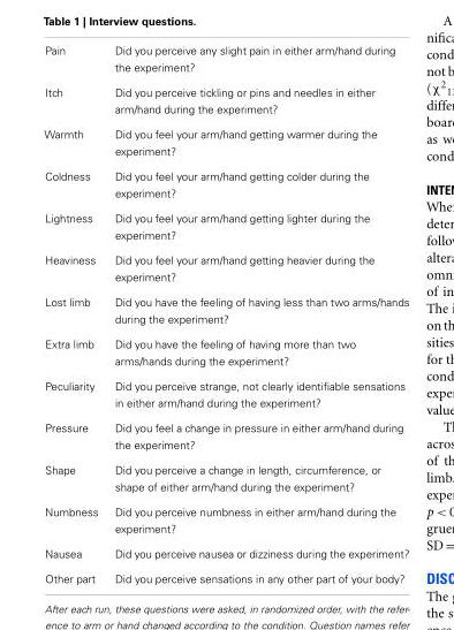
<table><tbody><tr><td>Pain</td><td>Did you perceive any slight pain in either arm/hand during the experiment?</td></tr><tr><td>Itch</td><td>Did you perceive tickling or pins and needles in either arm/hand during the experiment?</td></tr><tr><td>Warmth</td><td>Did you feel your arm/hand getting warmer during the experiment?</td></tr><tr><td>Coldness</td><td>Did you feel your arm/hand getting colder during the experiment?</td></tr><tr><td>Lightness</td><td>Did you feel your arm/hand getting lighter during the experiment?</td></tr><tr><td>Heaviness</td><td>Did you feel your arm/hand getting heavier during the experiment?</td></tr><tr><td>Lost limb</td><td>Did you have the feeling of having less than two arms/hands during the experiment?</td></tr><tr><td>Extra limb</td><td>Did you have the feeling of having more than two arms/hands during the experiment?</td></tr><tr><td>Peculiarity</td><td>Did you perceive strange, not clearly identifiable sensations in either arm/hand during the experiment?</td></tr><tr><td>Pressure</td><td>Did you feel a change in pressure in either arm/hand during the experiment?</td></tr><tr><td>Shape</td><td>Did you perceive a change in length, circumference, or shape of either arm/hand during the experiment?</td></tr><tr><td>Numbness</td><td>Did you perceive numbness in either arm/hand during the experiment?</td></tr><tr><td>Nausea</td><td>Did you perceive nausea or dizziness during the experiment?</td></tr><tr><td>Other part</td><td>Did you perceive sensations in any other part of your body?</td></tr></tbody></table>